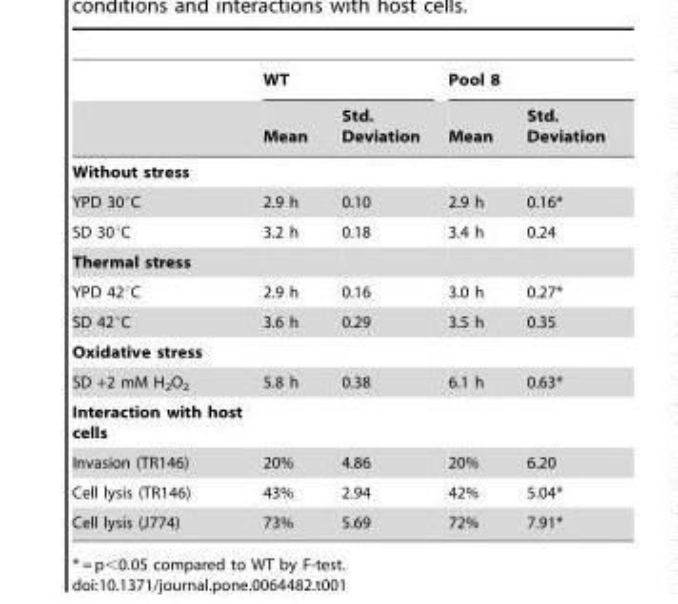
<table><thead><tr><td rowspan="2"></td><td colspan="2">WT</td><td colspan="2">Pool 8</td></tr><tr><td>Mean</td><td>Std. Deviation</td><td>Mean</td><td>Std. Deviation</td></tr></thead><tbody><tr><td colspan="5">Without stress</td></tr><tr><td>YPD 30°C</td><td>2.9 h</td><td>0.10</td><td>2.9 h</td><td>0.16*</td></tr><tr><td>SD 30°C</td><td>3.2 h</td><td>0.18</td><td>3.4 h</td><td>0.24</td></tr><tr><td colspan="5">Thermal stress</td></tr><tr><td>YPD 42°C</td><td>2.9 h</td><td>0.16</td><td>3.0 h</td><td>0.27*</td></tr><tr><td>SD 42°C</td><td>3.6 h</td><td>0.29</td><td>3.5 h</td><td>0.35</td></tr><tr><td colspan="5">Oxidative stress</td></tr><tr><td>SD +2 mM H<sub>2</sub>O<sub>2</sub></td><td>5.8 h</td><td>0.38</td><td>6.1 h</td><td>0.63*</td></tr><tr><td colspan="5">Interaction with host cells</td></tr><tr><td>Invasion (TR146)</td><td>20%</td><td>4.86</td><td>20%</td><td>6.20</td></tr><tr><td>Cell lysis (TR146)</td><td>43%</td><td>2.94</td><td>42%</td><td>5.04*</td></tr><tr><td>Cell lysis (J774)</td><td>73%</td><td>5.69</td><td>72%</td><td>7.91*</td></tr></tbody></table>